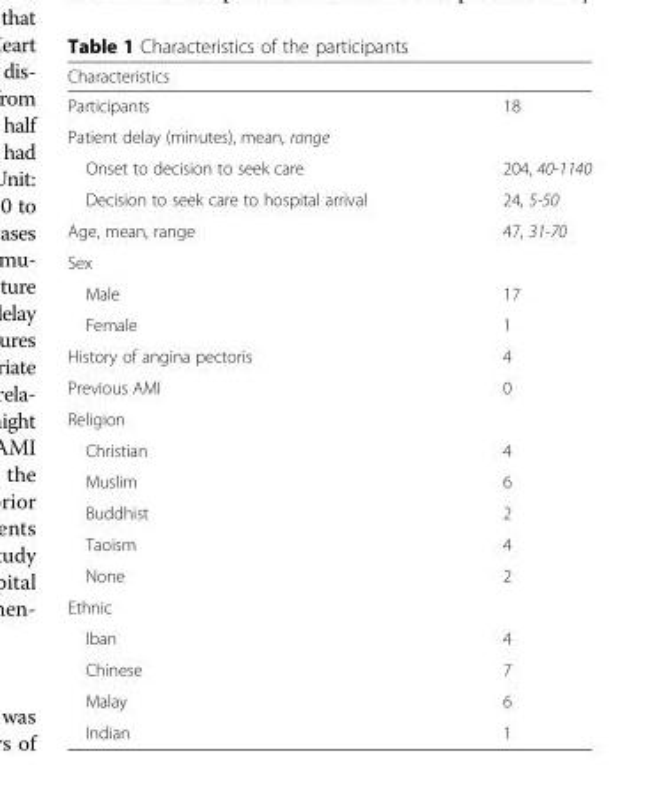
<table><thead><tr><td colspan="2">Characteristics</td></tr><tr><td>Participants</td><td>18</td></tr></thead><tbody><tr><td colspan="2">Patient delay (minutes), mean, range</td></tr><tr><td>Onset to decision to seek care</td><td>204, 40-1140</td></tr><tr><td>Decision to seek care to hospital arrival</td><td>24, 5-50</td></tr><tr><td>Age, mean, range</td><td>47, 31-70</td></tr><tr><td colspan="2">Sex</td></tr><tr><td>Male</td><td>17</td></tr><tr><td>Female</td><td>1</td></tr><tr><td>History of angina pectoris</td><td>4</td></tr><tr><td>Previous AMI</td><td>0</td></tr><tr><td colspan="2">Religion</td></tr><tr><td>Christian</td><td>4</td></tr><tr><td>Muslim</td><td>6</td></tr><tr><td>Buddhist</td><td>2</td></tr><tr><td>Taoism</td><td>4</td></tr><tr><td>None</td><td>2</td></tr><tr><td colspan="2">Ethnic</td></tr><tr><td>Iban</td><td>4</td></tr><tr><td>Chinese</td><td>7</td></tr><tr><td>Malay</td><td>6</td></tr><tr><td>Indian</td><td>1</td></tr></tbody></table>